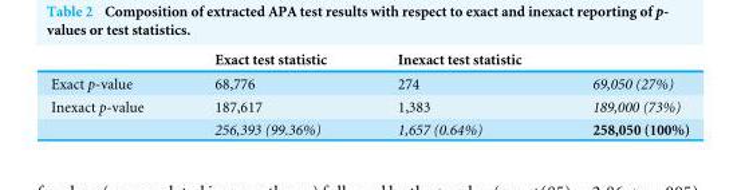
<table><thead><tr><td></td><td>Exact test statistic</td><td>Inexact test statistic</td><td></td></tr></thead><tbody><tr><td>Exact p-value</td><td>68,776</td><td>274</td><td>69,050 (27%)</td></tr><tr><td rowspan="2">Inexact p-value</td><td>187,617</td><td>1,383</td><td>189,000 (73%)</td></tr><tr><td>256,393 (99.36%)</td><td>1,657 (0.64%)</td><td>258,050 (100%)</td></tr></tbody></table>